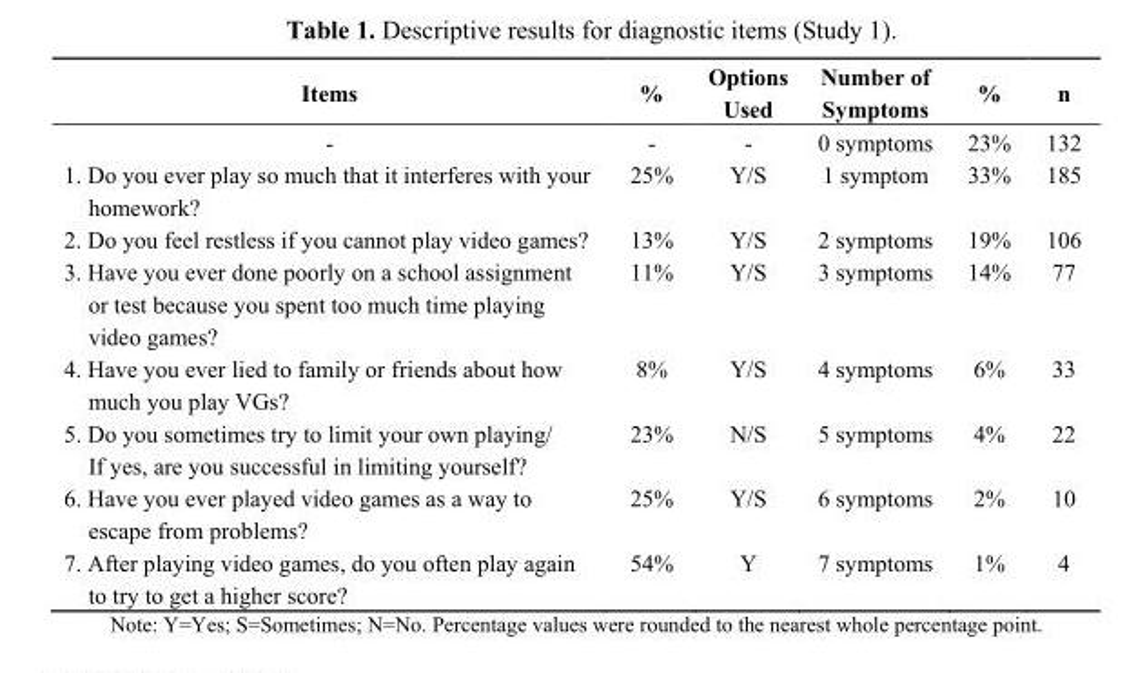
<table><thead><tr><td>Items</td><td>%</td><td>Options Used</td><td>Number of Symptoms</td><td>%</td><td>n</td></tr></thead><tbody><tr><td>-</td><td>-</td><td>-</td><td>0 symptoms</td><td>23%</td><td>132</td></tr><tr><td>1. Do you ever play so much that it interferes with your homework?</td><td>25%</td><td>Y/S</td><td>1 symptom</td><td>33%</td><td>185</td></tr><tr><td>2. Do you feel restless if you cannot play video games?</td><td>13%</td><td>Y/S</td><td>2 symptoms</td><td>19%</td><td>106</td></tr><tr><td>3. Have you ever done poorly on a school assignment or test because you spent too much time playing video games?</td><td>11%</td><td>Y/S</td><td>3 symptoms</td><td>14%</td><td>77</td></tr><tr><td>4. Have you ever lied to family or friends about how much you play VGs?</td><td>8%</td><td>Y/S</td><td>4 symptoms</td><td>6%</td><td>33</td></tr><tr><td>5. Do you sometimes try to limit your own playing/ If yes, are you successful in limiting yourself?</td><td>23%</td><td>N/S</td><td>5 symptoms</td><td>4%</td><td>22</td></tr><tr><td>6. Have you ever played video games as a way to escape from problems?</td><td>25%</td><td>Y/S</td><td>6 symptoms</td><td>2%</td><td>10</td></tr><tr><td>7. After playing video games, do you often play again to try to get a higher score?</td><td>54%</td><td>Y</td><td>7 symptoms</td><td>1%</td><td>4</td></tr></tbody></table>